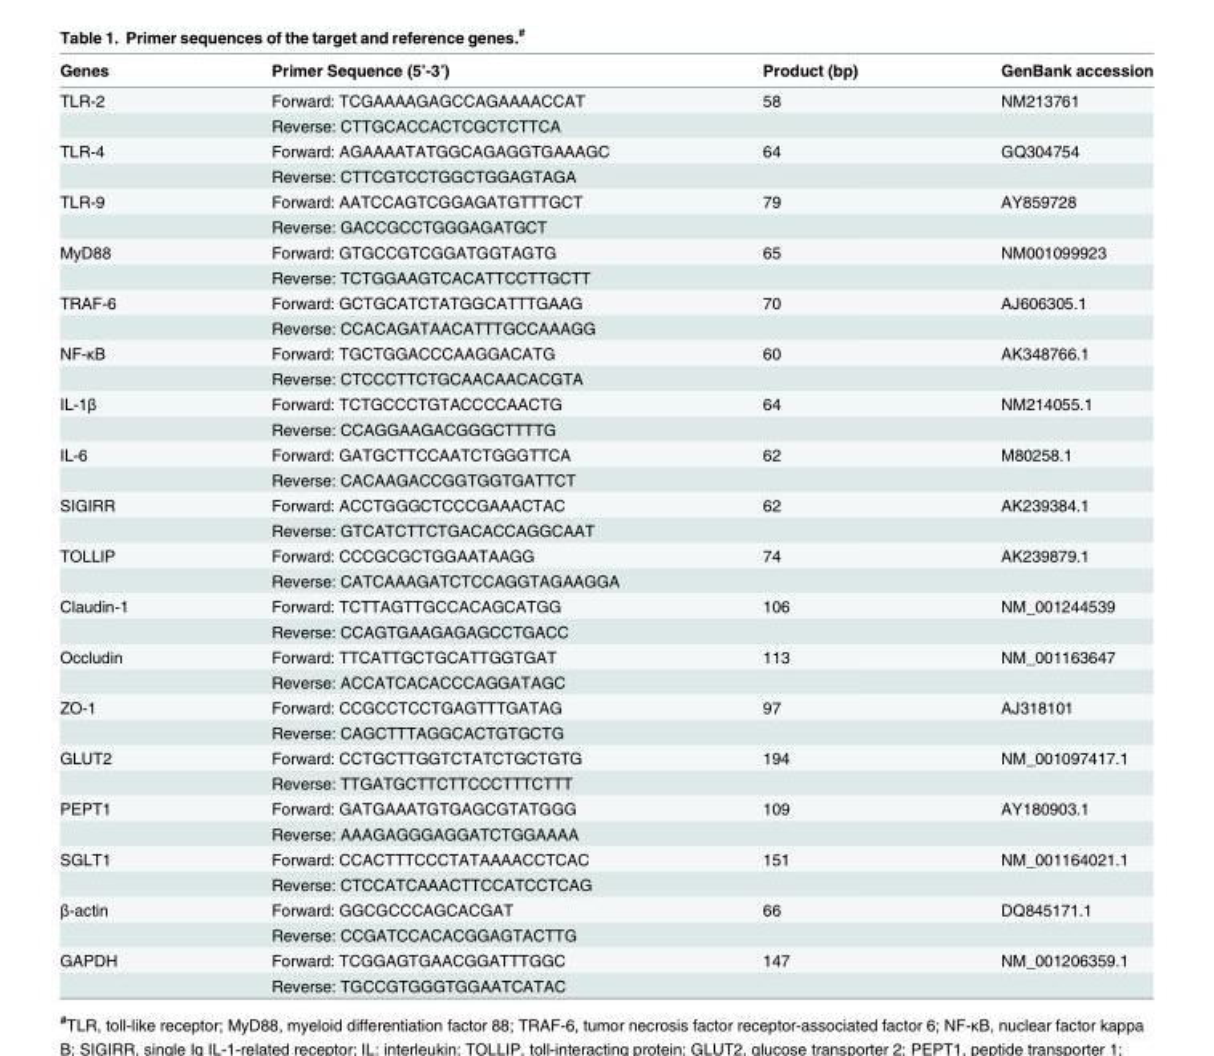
<table><thead><tr><td>Genes</td><td>Primer Sequence (5’-3’)</td><td>Product (bp)</td><td>GenBank accession</td></tr></thead><tbody><tr><td rowspan="2">TLR-2</td><td>Forward: TCGAAAAGAGCCAGAAAACCAT</td><td>58</td><td>NM213761</td></tr><tr><td>Reverse: CTTGCACCACTCGCTCTTCA</td><td></td><td></td></tr><tr><td rowspan="2">TLR-4</td><td>Forward: AGAAAATATGGCAGAGGTGAAAGC</td><td>64</td><td>GQ304754</td></tr><tr><td>Reverse: CTTCGTCCTGGCTGGAGTAGA</td><td></td><td></td></tr><tr><td rowspan="2">TLR-9</td><td>Forward: AATCCAGTCGGAGATGTTTGCT</td><td>79</td><td>AY859728</td></tr><tr><td>Reverse: GACCGCCTGGGAGATGCT</td><td></td><td></td></tr><tr><td rowspan="2">MyD88</td><td>Forward: GTGCCGTCGGATGGTAGTG</td><td>65</td><td>NM001099923</td></tr><tr><td>Reverse: TCTGGAAGTCACATTCCTTGCTT</td><td></td><td></td></tr><tr><td rowspan="2">TRAF-6</td><td>Forward: GCTGCATCTATGGCATTTGAAG</td><td>70</td><td>AJ606305.1</td></tr><tr><td>Reverse: CCACAGATAACATTTGCCAAAGG</td><td></td><td></td></tr><tr><td rowspan="2">NF-κB</td><td>Forward: TGCTGGACCCAAGGACATG</td><td>60</td><td>AK348766.1</td></tr><tr><td>Reverse: CTCCCTTCTGCAACAACACGTA</td><td></td><td></td></tr><tr><td rowspan="2">IL-1β</td><td>Forward: TCTGCCCTGTACCCCAACTG</td><td>64</td><td>NM214055.1</td></tr><tr><td>Reverse: CCAGGAAGACGGGCTTTTG</td><td></td><td></td></tr><tr><td rowspan="2">IL-6</td><td>Forward: GATGCTTCCAATCTGGGTTCA</td><td>62</td><td>M80258.1</td></tr><tr><td>Reverse: CACAAGACCGGTGGTGATTCT</td><td></td><td></td></tr><tr><td rowspan="2">SIGIRR</td><td>Forward: ACCTGGGCTCCCGAAACTAC</td><td>62</td><td>AK239384.1</td></tr><tr><td>Reverse: GTCATCTTCTGACACCAGGCAAT</td><td></td><td></td></tr><tr><td rowspan="2">TOLLIP</td><td>Forward: CCCGCGCTGGAATAAGG</td><td>74</td><td>AK239879.1</td></tr><tr><td>Reverse: CATCAAAGATCTCCAGGTAGAAGGA</td><td></td><td></td></tr><tr><td rowspan="2">Claudin-1</td><td>Forward: TCTTAGTTGCCACAGCATGG</td><td>106</td><td>NM_001244539</td></tr><tr><td>Reverse: CCAGTGAAGAGAGCCTGACC</td><td></td><td></td></tr><tr><td rowspan="2">Occludin</td><td>Forward: TTCATTGCTGCATTGGTGAT</td><td>113</td><td>NM_001163647</td></tr><tr><td>Reverse: ACCATCACACCCAGGATAGC</td><td></td><td></td></tr><tr><td rowspan="2">ZO-1</td><td>Forward: CCGCCTCCTGAGTTTGATAG</td><td>97</td><td>AJ318101</td></tr><tr><td>Reverse: CAGCTTTAGGCACTGTGCTG</td><td></td><td></td></tr><tr><td rowspan="2">GLUT2</td><td>Forward: CCTGCTTGGTCTATCTGCTGTG</td><td>194</td><td>NM_001097417.1</td></tr><tr><td>Reverse: TTGATGCTTCTTCCCTTTCTTT</td><td></td><td></td></tr><tr><td rowspan="2">PEPT1</td><td>Forward: GATGAAATGTGAGCGTATGGG</td><td>109</td><td>AY180903.1</td></tr><tr><td>Reverse: AAAGAGGGAGGATCTGGAAAA</td><td></td><td></td></tr><tr><td rowspan="2">SGLT1</td><td>Forward: CCACTTTCCCTATAAAACCTCAC</td><td>151</td><td>NM_001164021.1</td></tr><tr><td>Reverse: CTCCATCAAACTTCCATCCTCAG</td><td></td><td></td></tr><tr><td rowspan="2">β-actin</td><td>Forward: GGCGCCCAGCACGAT</td><td>66</td><td>DQ845171.1</td></tr><tr><td>Reverse: CCGATCCACACGGAGTACTTG</td><td></td><td></td></tr><tr><td rowspan="2">GAPDH</td><td>Forward: TCGGAGTGAACGGATTTGGC</td><td>147</td><td>NM_001206359.1</td></tr><tr><td>Reverse: TGCCGTGGGTGGAATCATAC</td><td></td><td></td></tr></tbody></table>